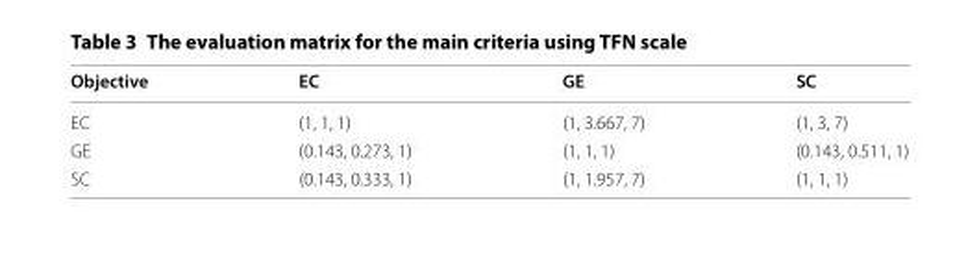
<table><thead><tr><td>Objective</td><td>EC</td><td>GE</td><td>SC</td></tr></thead><tbody><tr><td>EC</td><td>(1, 1, 1)</td><td>(1, 3.667, 7)</td><td>(1, 3, 7)</td></tr><tr><td>GE</td><td>(0.143, 0.273, 1)</td><td>(1, 1, 1)</td><td>(0.143, 0.511, 1)</td></tr><tr><td>SC</td><td>(0.143, 0.333, 1)</td><td>(1, 1.957, 7)</td><td>(1, 1, 1)</td></tr></tbody></table>